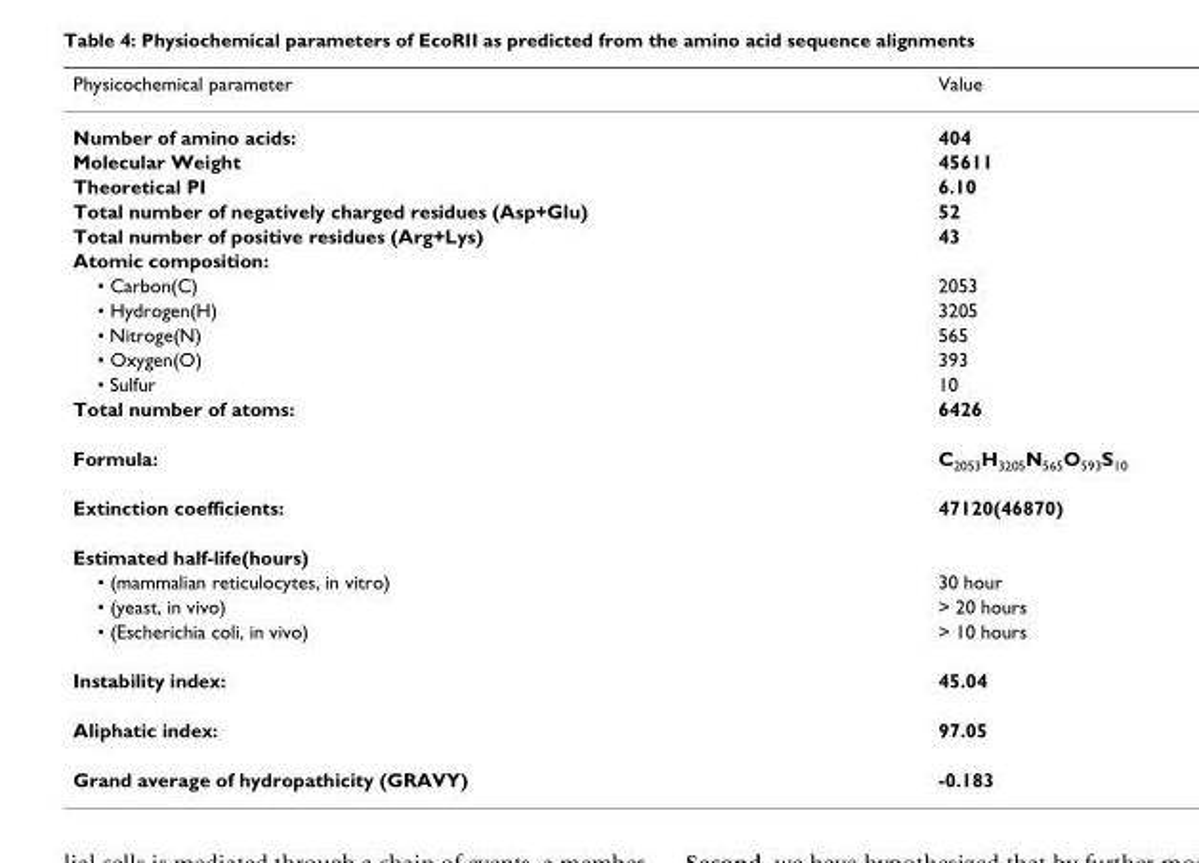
<table><thead><tr><td>Physicochemical parameter</td><td>Value</td></tr></thead><tbody><tr><td>Number of amino acids:</td><td>404</td></tr><tr><td>Molecular Weight</td><td>45611</td></tr><tr><td>Theoretical PI</td><td>6.10</td></tr><tr><td>Total number of negatively charged residues (Asp+Glu)</td><td>52</td></tr><tr><td>Total number of positive residues (Arg+Lys)</td><td>43</td></tr><tr><td colspan="2">Atomic composition:</td></tr><tr><td>• Carbon(C)</td><td>2053</td></tr><tr><td>• Hydrogen(H)</td><td>3205</td></tr><tr><td>• Nitroge(N)</td><td>565</td></tr><tr><td>• Oxygen(O)</td><td>393</td></tr><tr><td>• Sulfur</td><td>10</td></tr><tr><td>Total number of atoms:</td><td>6426</td></tr><tr><td>Formula:</td><td>C<sub>2053</sub>H<sub>3205</sub>N<sub>565</sub>O<sub>593</sub>S<sub>10</sub></td></tr><tr><td>Extinction coefficients:</td><td>47120(46870)</td></tr><tr><td colspan="2">Estimated half-life(hours)</td></tr><tr><td>• (mammalian reticulocytes, in vitro)</td><td>30 hour</td></tr><tr><td>• (yeast, in vivo)</td><td>&gt; 20 hours</td></tr><tr><td>• (Escherichia coli, in vivo)</td><td>&gt; 10 hours</td></tr><tr><td>Instability index:</td><td>45.04</td></tr><tr><td>Aliphatic index:</td><td>97.05</td></tr><tr><td>Grand average of hydropathicity (GRAVY)</td><td>-0.183</td></tr></tbody></table>